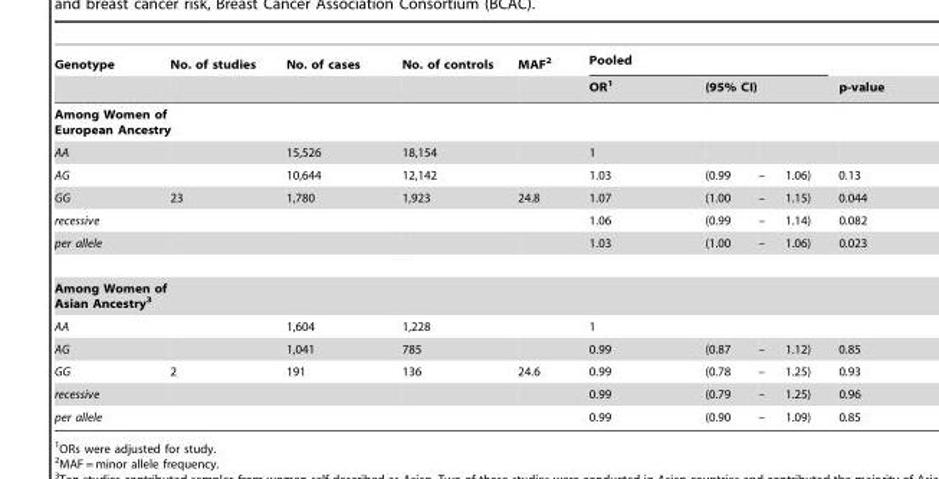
<table><thead><tr><td rowspan="2">Genotype</td><td rowspan="2">No. of studies</td><td rowspan="2">No. of cases</td><td rowspan="2">No. of controls</td><td rowspan="2">MAF<sup>2</sup></td><td colspan="4">Pooled</td><td rowspan="2">p-value</td></tr><tr><td>OR<sup>1</sup></td><td colspan="3">(95% CI)</td></tr><tr><td colspan="10">Among Women of European Ancestry</td></tr><tr><td>AA</td><td></td><td>15,526</td><td>18,154</td><td></td><td>1</td><td></td><td></td><td></td><td></td></tr></thead><tbody><tr><td>AG</td><td></td><td>10,644</td><td>12,142</td><td></td><td>1.03</td><td>(0.99</td><td>–</td><td>1.06)</td><td>0.13</td></tr><tr><td>GG</td><td>23</td><td>1,780</td><td>1,923</td><td>24.8</td><td>1.07</td><td>(1.00</td><td>–</td><td>1.15)</td><td>0.044</td></tr><tr><td>recessive</td><td></td><td></td><td></td><td></td><td>1.06</td><td>(0.99</td><td>–</td><td>1.14)</td><td>0.082</td></tr><tr><td>per allele</td><td></td><td></td><td></td><td></td><td>1.03</td><td>(1.00</td><td>–</td><td>1.06)</td><td>0.023</td></tr><tr><td colspan="10">Among Women of Asian Ancestry3</td></tr><tr><td>AA</td><td></td><td>1,604</td><td>1,228</td><td></td><td>1</td><td></td><td></td><td></td><td></td></tr><tr><td>AG</td><td></td><td>1,041</td><td>785</td><td></td><td>0.99</td><td>(0.87</td><td>–</td><td>1.12)</td><td>0.85</td></tr><tr><td>GG</td><td>2</td><td>191</td><td>136</td><td>24.6</td><td>0.99</td><td>(0.78</td><td>–</td><td>1.25)</td><td>0.93</td></tr><tr><td>recessive</td><td></td><td></td><td></td><td></td><td>0.99</td><td>(0.79</td><td>–</td><td>1.25)</td><td>0.96</td></tr><tr><td>per allele</td><td></td><td></td><td></td><td></td><td>0.99</td><td>(0.90</td><td>–</td><td>1.09)</td><td>0.85</td></tr></tbody></table>